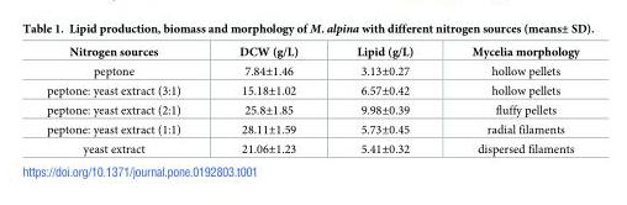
<table><thead><tr><td>Nitrogen sources</td><td>DCW (g/L)</td><td>Lipid (g/L)</td><td>Mycelia morphology</td></tr></thead><tbody><tr><td>peptone</td><td>7.84±1.46</td><td>3.13±0.27</td><td>hollow pellets</td></tr><tr><td>peptone: yeast extract (3:1)</td><td>15.18±1.02</td><td>6.57±0.42</td><td>hollow pellets</td></tr><tr><td>peptone: yeast extract (2:1)</td><td>25.8±1.85</td><td>9.98±0.39</td><td>fluffy pellets</td></tr><tr><td>peptone: yeast extract (1:1)</td><td>28.11±1.59</td><td>5.73±0.45</td><td>radial filaments</td></tr><tr><td>yeast extract</td><td>21.06±1.23</td><td>5.41±0.32</td><td>dispersed filaments</td></tr></tbody></table>